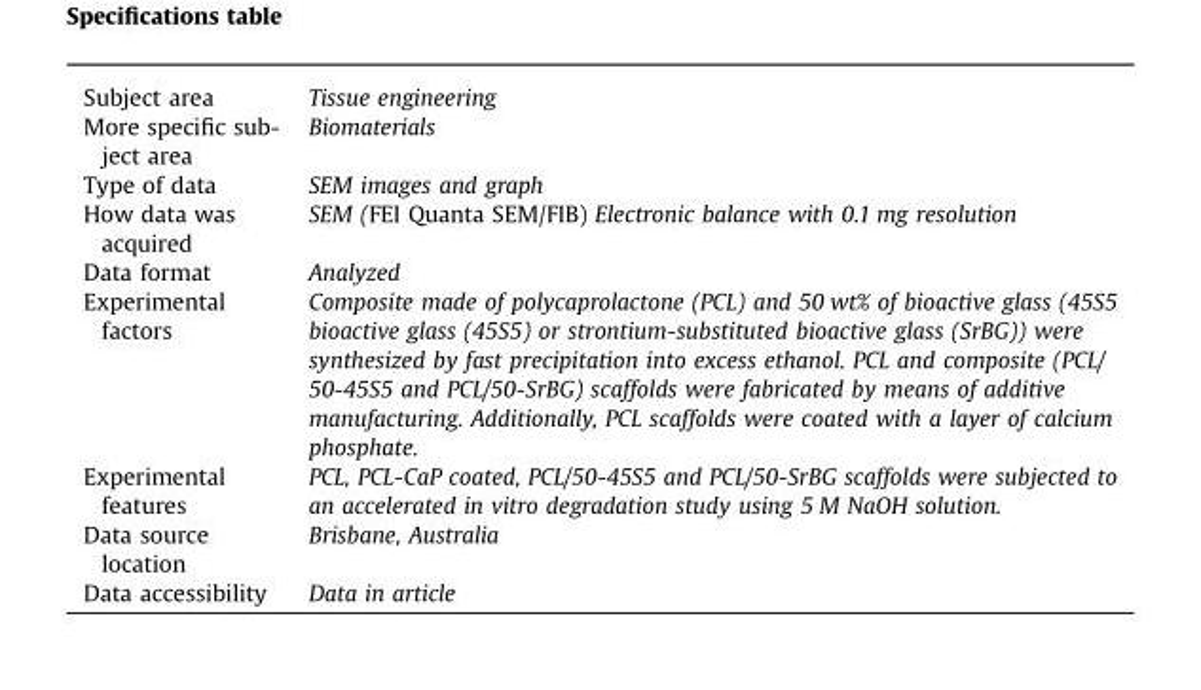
<table><tbody><tr><td>Subject area</td><td>Tissue engineering</td></tr><tr><td>More specific sub- ject area</td><td>Biomaterials</td></tr><tr><td>Type of data</td><td>SEM images and graph</td></tr><tr><td>How data was acquired</td><td>SEM (FEI Quanta SEM/FIB) Electronic balance with 0.1 mg resolution</td></tr><tr><td>Data format</td><td>Analyzed</td></tr><tr><td>Experimental factors</td><td>Composite made of polycaprolactone (PCL) and 50 wt% of bioactive glass (45S5 bioactive glass (45S5) or strontium-substituted bioactive glass (SrBG)) were synthesized by fast precipitation into excess ethanol. PCL and composite (PCL/ 50-45S5 and PCL/50-SrBG) scaffolds were fabricated by means of additive manufacturing. Additionally, PCL scaffolds were coated with a layer of calcium phosphate.</td></tr><tr><td>Experimental features</td><td>PCL, PCL-CaP coated, PCL/50-45S5 and PCL/50-SrBG scaffolds were subjected to an accelerated in vitro degradation study using 5 M NaOH solution.</td></tr><tr><td>Data source location</td><td>Brisbane, Australia</td></tr><tr><td>Data accessibility</td><td>Data in article</td></tr></tbody></table>